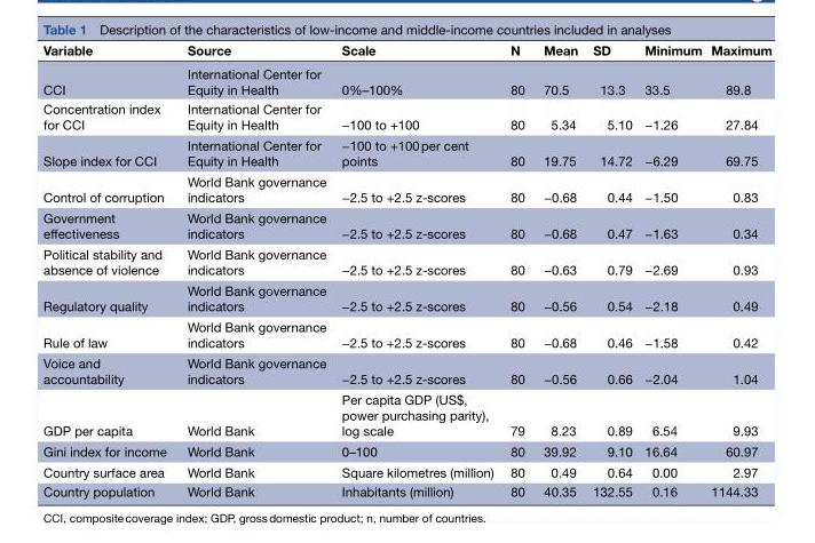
<table><thead><tr><td>Variable</td><td>Source</td><td>Scale</td><td>N</td><td>Mean</td><td>SD</td><td>Minimum</td><td>Maximum</td></tr></thead><tbody><tr><td>CCI</td><td>International Center for Equity in Health</td><td>0%–100%</td><td>80</td><td>70.5</td><td>13.3</td><td>33.5</td><td>89.8</td></tr><tr><td>Concentration index for CCI</td><td>International Center for Equity in Health</td><td>−100 to +100</td><td>80</td><td>5.34</td><td>5.10</td><td>−1.26</td><td>27.84</td></tr><tr><td>Slope index for CCI</td><td>International Center for Equity in Health</td><td>−100 to +100 per cent points</td><td>80</td><td>19.75</td><td>14.72</td><td>−6.29</td><td>69.75</td></tr><tr><td>Control of corruption</td><td>World Bank governance indicators</td><td>−2.5 to +2.5 z-scores</td><td>80</td><td>−0.68</td><td>0.44</td><td>−1.50</td><td>0.83</td></tr><tr><td>Government effectiveness</td><td>World Bank governance indicators</td><td>−2.5 to +2.5 z-scores</td><td>80</td><td>−0.68</td><td>0.47</td><td>−1.63</td><td>0.34</td></tr><tr><td>Political stability and absence of violence</td><td>World Bank governance indicators</td><td>−2.5 to +2.5 z-scores</td><td>80</td><td>−0.63</td><td>0.79</td><td>−2.69</td><td>0.93</td></tr><tr><td>Regulatory quality</td><td>World Bank governance indicators</td><td>−2.5 to +2.5 z-scores</td><td>80</td><td>−0.56</td><td>0.54</td><td>−2.18</td><td>0.49</td></tr><tr><td>Rule of law</td><td>World Bank governance indicators</td><td>−2.5 to +2.5 z-scores</td><td>80</td><td>−0.68</td><td>0.46</td><td>−1.58</td><td>0.42</td></tr><tr><td>Voice and accountability</td><td>World Bank governance indicators</td><td>−2.5 to +2.5 z-scores</td><td>80</td><td>−0.56</td><td>0.66</td><td>−2.04</td><td>1.04</td></tr><tr><td>GDP per capita</td><td>World Bank</td><td>Per capita GDP (US$, power purchasing parity), log scale</td><td>79</td><td>8.23</td><td>0.89</td><td>6.54</td><td>9.93</td></tr><tr><td>Gini index for income</td><td>World Bank</td><td>0–100</td><td>80</td><td>39.92</td><td>9.10</td><td>16.64</td><td>60.97</td></tr><tr><td>Country surface area</td><td>World Bank</td><td>Square kilometres (million)</td><td>80</td><td>0.49</td><td>0.64</td><td>0.00</td><td>2.97</td></tr><tr><td>Country population</td><td>World Bank</td><td>Inhabitants (million)</td><td>80</td><td>40.35</td><td>132.55</td><td>0.16</td><td>1144.33</td></tr></tbody></table>